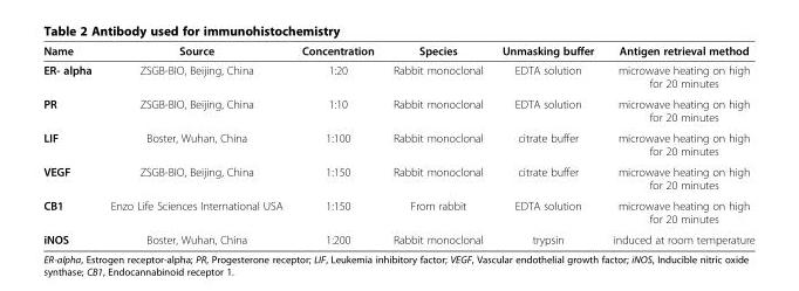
<table><thead><tr><td>Name</td><td>Source</td><td>Concentration</td><td>Species</td><td>Unmasking buffer</td><td>Antigen retrieval method</td></tr></thead><tbody><tr><td>ER- alpha</td><td>ZSGB-BIO, Beijing, China</td><td>1:20</td><td>Rabbit monoclonal</td><td>EDTA solution</td><td>microwave heating on high for 20 minutes</td></tr><tr><td>PR</td><td>ZSGB-BIO, Beijing, China</td><td>1:10</td><td>Rabbit monoclonal</td><td>EDTA solution</td><td>microwave heating on high for 20 minutes</td></tr><tr><td>LIF</td><td>Boster, Wuhan, China</td><td>1:100</td><td>Rabbit monoclonal</td><td>citrate buffer</td><td>microwave heating on high for 20 minutes</td></tr><tr><td>VEGF</td><td>ZSGB-BIO, Beijing, China</td><td>1:150</td><td>Rabbit monoclonal</td><td>citrate buffer</td><td>microwave heating on high for 20 minutes</td></tr><tr><td>CB1</td><td>Enzo Life Sciences International USA</td><td>1:150</td><td>From rabbit</td><td>EDTA solution</td><td>microwave heating on high for 20 minutes</td></tr><tr><td>iNOS</td><td>Boster, Wuhan, China</td><td>1:200</td><td>Rabbit monoclonal</td><td>trypsin</td><td>induced at room temperature</td></tr></tbody></table>